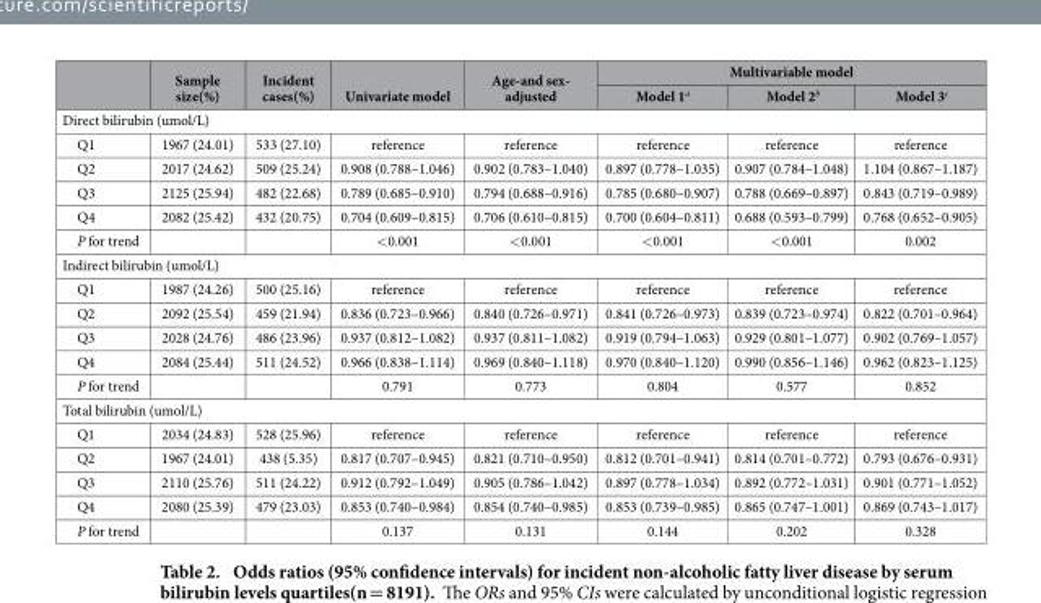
<table><thead><tr><td rowspan="2"></td><td rowspan="2">Sample size(%)</td><td rowspan="2">Incident cases(%)</td><td rowspan="2">Univariate model</td><td rowspan="2">Age-and sex- adjusted</td><td colspan="3">Multivariable model</td></tr><tr><td>Model 1<sup>a</sup></td><td>Model 2<sup>b</sup></td><td>Model 3<sup>c</sup></td></tr></thead><tbody><tr><td colspan="8">Direct bilirubin (umol/L)</td></tr><tr><td>Q1</td><td>1967 (24.01)</td><td>533 (27.10)</td><td>reference</td><td>reference</td><td>reference</td><td>reference</td><td>reference</td></tr><tr><td>Q2</td><td>2017 (24.62)</td><td>509 (25.24)</td><td>0.908 (0.788–1.046)</td><td>0.902 (0.783–1.040)</td><td>0.897 (0.778–1.035)</td><td>0.907 (0.784–1.048)</td><td>1.104 (0.867–1.187)</td></tr><tr><td>Q3</td><td>2125 (25.94)</td><td>482 (22.68)</td><td>0.789 (0.685–0.910)</td><td>0.794 (0.688–0.916)</td><td>0.785 (0.680–0.907)</td><td>0.788 (0.669–0.897)</td><td>0.843 (0.719–0.989)</td></tr><tr><td>Q4</td><td>2082 (25.42)</td><td>432 (20.75)</td><td>0.704 (0.609–0.815)</td><td>0.706 (0.610–0.815)</td><td>0.700 (0.604–0.811)</td><td>0.688 (0.593–0.799)</td><td>0.768 (0.652–0.905)</td></tr><tr><td>P for trend</td><td></td><td></td><td>&lt; 0.001</td><td>&lt; 0.001</td><td>&lt; 0.001</td><td>&lt; 0.001</td><td>0.002</td></tr><tr><td colspan="8">Indirect bilirubin (umol/L)</td></tr><tr><td>Q1</td><td>1987 (24.26)</td><td>500 (25.16)</td><td>reference</td><td>reference</td><td>reference</td><td>reference</td><td>reference</td></tr><tr><td>Q2</td><td>2092 (25.54)</td><td>459 (21.94)</td><td>0.836 (0.723–0.966)</td><td>0.840 (0.726–0.971)</td><td>0.841 (0.726–0.973)</td><td>0.839 (0.723–0.974)</td><td>0.822 (0.701–0.964)</td></tr><tr><td>Q3</td><td>2028 (24.76)</td><td>486 (23.96)</td><td>0.937 (0.812–1.082)</td><td>0.937 (0.811–1.082)</td><td>0.919 (0.794–1.063)</td><td>0.929 (0.801–1.077)</td><td>0.902 (0.769–1.057)</td></tr><tr><td>Q4</td><td>2084 (25.44)</td><td>511 (24.52)</td><td>0.966 (0.838–1.114)</td><td>0.969 (0.840–1.118)</td><td>0.970 (0.840–1.120)</td><td>0.990 (0.856–1.146)</td><td>0.962 (0.823–1.125)</td></tr><tr><td>P for trend</td><td></td><td></td><td>0.791</td><td>0.773</td><td>0.804</td><td>0.577</td><td>0.852</td></tr><tr><td colspan="8">Total bilirubin (umol/L)</td></tr><tr><td>Q1</td><td>2034 (24.83)</td><td>528 (25.96)</td><td>reference</td><td>reference</td><td>reference</td><td>reference</td><td>reference</td></tr><tr><td>Q2</td><td>1967 (24.01)</td><td>438 (5.35)</td><td>0.817 (0.707–0.945)</td><td>0.821 (0.710–0.950)</td><td>0.812 (0.701–0.941)</td><td>0.814 (0.701–0.772)</td><td>0.793 (0.676–0.931)</td></tr><tr><td>Q3</td><td>2110 (25.76)</td><td>511 (24.22)</td><td>0.912 (0.792–1.049)</td><td>0.905 (0.786–1.042)</td><td>0.897 (0.778–1.034)</td><td>0.892 (0.772–1.031)</td><td>0.901 (0.771–1.052)</td></tr><tr><td>Q4</td><td>2080 (25.39)</td><td>479 (23.03)</td><td>0.853 (0.740–0.984)</td><td>0.854 (0.740–0.985)</td><td>0.853 (0.739–0.985)</td><td>0.865 (0.747–1.001)</td><td>0.869 (0.743–1.017)</td></tr><tr><td>P for trend</td><td></td><td></td><td>0.137</td><td>0.131</td><td>0.144</td><td>0.202</td><td>0.328</td></tr></tbody></table>